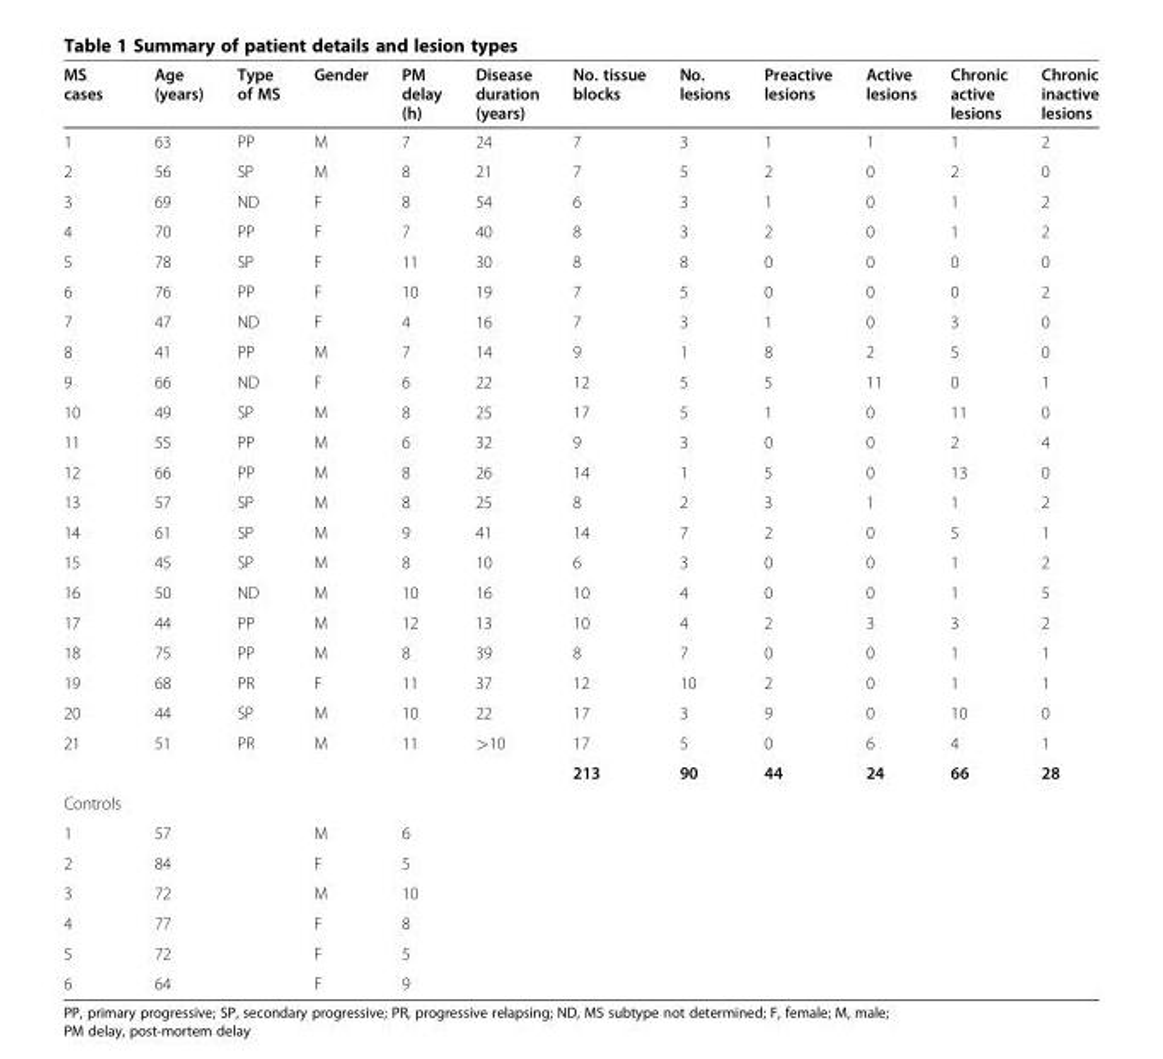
<table><thead><tr><td>MS cases</td><td>Age (years)</td><td>Type of MS</td><td>Gender</td><td>PM delay (h)</td><td>Disease duration (years)</td><td>No. tissue blocks</td><td>No. lesions</td><td>Preactive lesions</td><td>Active lesions</td><td>Chronic active lesions</td><td>Chronic inactive lesions</td></tr></thead><tbody><tr><td>1</td><td>63</td><td>PP</td><td>M</td><td>7</td><td>24</td><td>7</td><td>3</td><td>1</td><td>1</td><td>1</td><td>2</td></tr><tr><td>2</td><td>56</td><td>SP</td><td>M</td><td>8</td><td>21</td><td>7</td><td>5</td><td>2</td><td>0</td><td>2</td><td>0</td></tr><tr><td>3</td><td>69</td><td>ND</td><td>F</td><td>8</td><td>54</td><td>6</td><td>3</td><td>1</td><td>0</td><td>1</td><td>2</td></tr><tr><td>4</td><td>70</td><td>PP</td><td>F</td><td>7</td><td>40</td><td>8</td><td>3</td><td>2</td><td>0</td><td>1</td><td>2</td></tr><tr><td>5</td><td>78</td><td>SP</td><td>F</td><td>11</td><td>30</td><td>8</td><td>8</td><td>0</td><td>0</td><td>0</td><td>0</td></tr><tr><td>6</td><td>76</td><td>PP</td><td>F</td><td>10</td><td>19</td><td>7</td><td>5</td><td>0</td><td>0</td><td>0</td><td>2</td></tr><tr><td>7</td><td>47</td><td>ND</td><td>F</td><td>4</td><td>16</td><td>7</td><td>3</td><td>1</td><td>0</td><td>3</td><td>0</td></tr><tr><td>8</td><td>41</td><td>PP</td><td>M</td><td>7</td><td>14</td><td>9</td><td>1</td><td>8</td><td>2</td><td>5</td><td>0</td></tr><tr><td>9</td><td>66</td><td>ND</td><td>F</td><td>6</td><td>22</td><td>12</td><td>5</td><td>5</td><td>11</td><td>0</td><td>1</td></tr><tr><td>10</td><td>49</td><td>SP</td><td>M</td><td>8</td><td>25</td><td>17</td><td>5</td><td>1</td><td>0</td><td>11</td><td>0</td></tr><tr><td>11</td><td>55</td><td>PP</td><td>M</td><td>6</td><td>32</td><td>9</td><td>3</td><td>0</td><td>0</td><td>2</td><td>4</td></tr><tr><td>12</td><td>66</td><td>PP</td><td>M</td><td>8</td><td>26</td><td>14</td><td>1</td><td>5</td><td>0</td><td>13</td><td>0</td></tr><tr><td>13</td><td>57</td><td>SP</td><td>M</td><td>8</td><td>25</td><td>8</td><td>2</td><td>3</td><td>1</td><td>1</td><td>2</td></tr><tr><td>14</td><td>61</td><td>SP</td><td>M</td><td>9</td><td>41</td><td>14</td><td>7</td><td>2</td><td>0</td><td>5</td><td>1</td></tr><tr><td>15</td><td>45</td><td>SP</td><td>M</td><td>8</td><td>10</td><td>6</td><td>3</td><td>0</td><td>0</td><td>1</td><td>2</td></tr><tr><td>16</td><td>50</td><td>ND</td><td>M</td><td>10</td><td>16</td><td>10</td><td>4</td><td>0</td><td>0</td><td>1</td><td>5</td></tr><tr><td>17</td><td>44</td><td>PP</td><td>M</td><td>12</td><td>13</td><td>10</td><td>4</td><td>2</td><td>3</td><td>3</td><td>2</td></tr><tr><td>18</td><td>75</td><td>PP</td><td>M</td><td>8</td><td>39</td><td>8</td><td>7</td><td>0</td><td>0</td><td>1</td><td>1</td></tr><tr><td>19</td><td>68</td><td>PR</td><td>F</td><td>11</td><td>37</td><td>12</td><td>10</td><td>2</td><td>0</td><td>1</td><td>1</td></tr><tr><td>20</td><td>44</td><td>SP</td><td>M</td><td>10</td><td>22</td><td>17</td><td>3</td><td>9</td><td>0</td><td>10</td><td>0</td></tr><tr><td rowspan="2">21</td><td>51</td><td>PR</td><td>M</td><td>11</td><td>&gt;10</td><td>17</td><td>5</td><td>0</td><td>6</td><td>4</td><td>1</td></tr><tr><td></td><td></td><td></td><td></td><td></td><td>213</td><td>90</td><td>44</td><td>24</td><td>66</td><td>28</td></tr><tr><td colspan="12">Controls</td></tr><tr><td>1</td><td>57</td><td></td><td>M</td><td>6</td><td></td><td></td><td></td><td></td><td></td><td></td><td></td></tr><tr><td>2</td><td>84</td><td></td><td>F</td><td>5</td><td></td><td></td><td></td><td></td><td></td><td></td><td></td></tr><tr><td>3</td><td>72</td><td></td><td>M</td><td>10</td><td></td><td></td><td></td><td></td><td></td><td></td><td></td></tr><tr><td>4</td><td>77</td><td></td><td>F</td><td>8</td><td></td><td></td><td></td><td></td><td></td><td></td><td></td></tr><tr><td>5</td><td>72</td><td></td><td>F</td><td>5</td><td></td><td></td><td></td><td></td><td></td><td></td><td></td></tr><tr><td>6</td><td>64</td><td></td><td>F</td><td>9</td><td></td><td></td><td></td><td></td><td></td><td></td><td></td></tr></tbody></table>